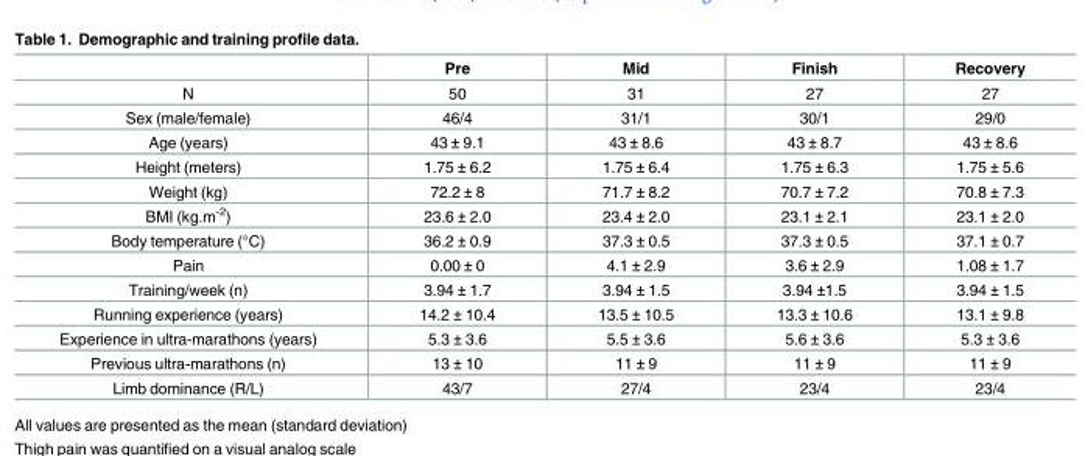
<table><thead><tr><td></td><td>Pre</td><td>Mid</td><td>Finish</td><td>Recovery</td></tr></thead><tbody><tr><td>N</td><td>50</td><td>31</td><td>27</td><td>27</td></tr><tr><td>Sex (male/female)</td><td>46/4</td><td>31/1</td><td>30/1</td><td>29/0</td></tr><tr><td>Age (years)</td><td>43 ± 9.1</td><td>43 ± 8.6</td><td>43 ± 8.7</td><td>43 ± 8.6</td></tr><tr><td>Height (meters)</td><td>1.75 ± 6.2</td><td>1.75 ± 6.4</td><td>1.75 ± 6.3</td><td>1.75 ± 5.6</td></tr><tr><td>Weight (kg)</td><td>72.2 ± 8</td><td>71.7 ± 8.2</td><td>70.7 ± 7.2</td><td>70.8 ± 7.3</td></tr><tr><td>BMI (kg.m<sup>-2</sup>)</td><td>23.6 ± 2.0</td><td>23.4 ± 2.0</td><td>23.1 ± 2.1</td><td>23.1 ± 2.0</td></tr><tr><td>Body temperature (°C)</td><td>36.2 ± 0.9</td><td>37.3 ± 0.5</td><td>37.3 ± 0.5</td><td>37.1 ± 0.7</td></tr><tr><td>Pain</td><td>0.00 ± 0</td><td>4.1 ± 2.9</td><td>3.6 ± 2.9</td><td>1.08 ± 1.7</td></tr><tr><td>Training/week (n)</td><td>3.94 ± 1.7</td><td>3.94 ± 1.5</td><td>3.94 ±1.5</td><td>3.94 ± 1.5</td></tr><tr><td>Running experience (years)</td><td>14.2 ± 10.4</td><td>13.5 ± 10.5</td><td>13.3 ± 10.6</td><td>13.1 ± 9.8</td></tr><tr><td>Experience in ultra-marathons (years)</td><td>5.3 ± 3.6</td><td>5.5 ± 3.6</td><td>5.6 ± 3.6</td><td>5.3 ± 3.6</td></tr><tr><td>Previous ultra-marathons (n)</td><td>13 ± 10</td><td>11 ± 9</td><td>11 ± 9</td><td>11 ± 9</td></tr><tr><td>Limb dominance (R/L)</td><td>43/7</td><td>27/4</td><td>23/4</td><td>23/4</td></tr></tbody></table>